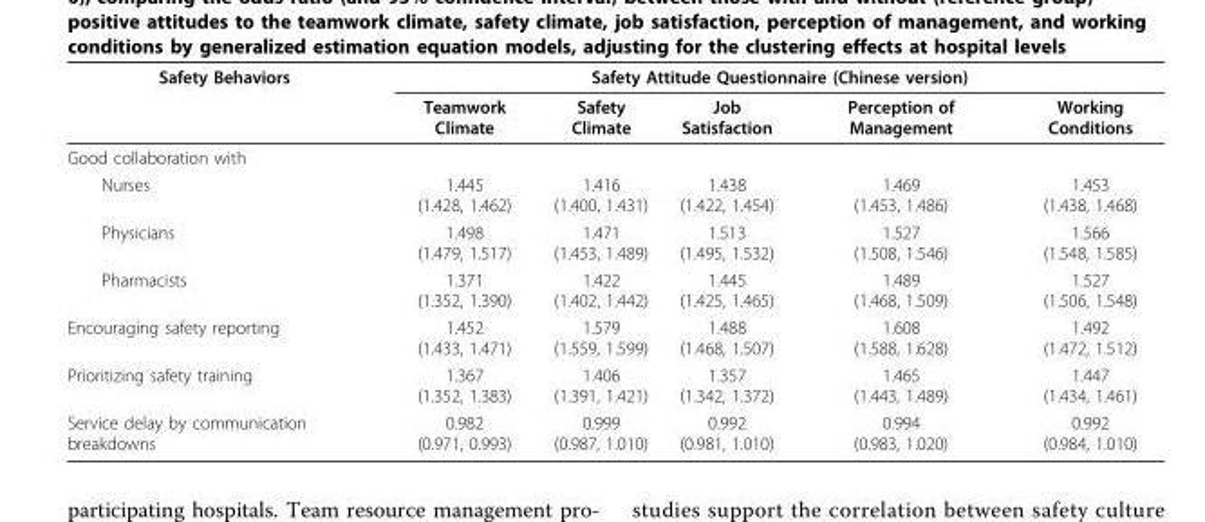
<table><thead><tr><td rowspan="2">Safety Behaviors</td><td colspan="5">Safety Attitude Questionnaire (Chinese version)</td></tr><tr><td>Teamwork Climate</td><td>Safety Climate</td><td>Job Satisfaction</td><td>Perception of Management</td><td>Working Conditions</td></tr></thead><tbody><tr><td colspan="6">Good collaboration with</td></tr><tr><td>Nurses</td><td>1.445 (1.428, 1.462)</td><td>1.416 (1.400, 1.431)</td><td>1.438 (1.422, 1.454)</td><td>1.469 (1.453, 1.486)</td><td>1.453 (1.438, 1.468)</td></tr><tr><td>Physicians</td><td>1.498 (1.479, 1.517)</td><td>1.471 (1.453, 1.489)</td><td>1.513 (1.495, 1.532)</td><td>1.527 (1.508, 1.546)</td><td>1.566 (1.548, 1.585)</td></tr><tr><td>Pharmacists</td><td>1.371 (1.352, 1.390)</td><td>1.422 (1.402, 1.442)</td><td>1.445 (1.425, 1.465)</td><td>1.489 (1.468, 1.509)</td><td>1.527 (1.506, 1.548)</td></tr><tr><td>Encouraging safety reporting</td><td>1.452 (1.433, 1.471)</td><td>1.579 (1.559, 1.599)</td><td>1.488 (1.468, 1.507)</td><td>1.608 (1.588, 1.628)</td><td>1.492 (1.472, 1.512)</td></tr><tr><td>Prioritizing safety training</td><td>1.367 (1.352, 1.383)</td><td>1.406 (1.391, 1.421)</td><td>1.357 (1.342, 1.372)</td><td>1.465 (1.443, 1.489)</td><td>1.447 (1.434, 1.461)</td></tr><tr><td>Service delay by communication breakdowns</td><td>0.982 (0.971, 0.993)</td><td>0.999 (0.987, 1.010)</td><td>0.992 (0.981, 1.010)</td><td>0.994 (0.983, 1.020)</td><td>0.992 (0.984, 1.010)</td></tr></tbody></table>